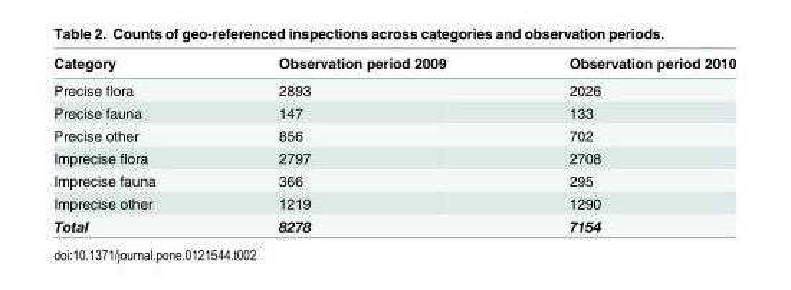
<table><thead><tr><td>Category</td><td>Observation period 2009</td><td>Observation period 2010</td></tr></thead><tbody><tr><td>Precise flora</td><td>2893</td><td>2026</td></tr><tr><td>Precise fauna</td><td>147</td><td>133</td></tr><tr><td>Precise other</td><td>856</td><td>702</td></tr><tr><td>Imprecise flora</td><td>2797</td><td>2708</td></tr><tr><td>Imprecise fauna</td><td>366</td><td>295</td></tr><tr><td>Imprecise other</td><td>1219</td><td>1290</td></tr><tr><td>Total</td><td>8278</td><td>7154</td></tr></tbody></table>